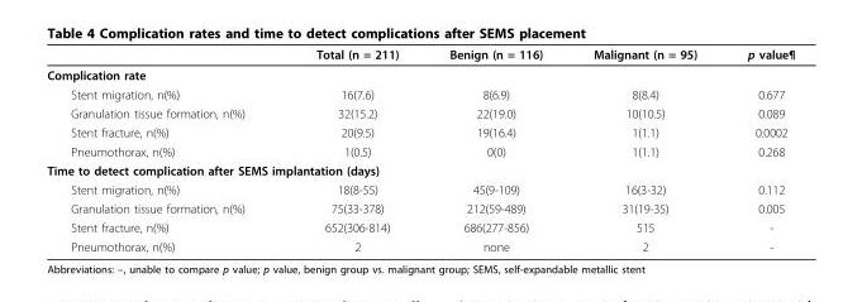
<table><thead><tr><td></td><td>Total (n = 211)</td><td>Benign (n = 116)</td><td>Malignant (n = 95)</td><td>p value¶</td></tr></thead><tbody><tr><td colspan="5">Complication rate</td></tr><tr><td>Stent migration, n(%)</td><td>16(7.6)</td><td>8(6.9)</td><td>8(8.4)</td><td>0.677</td></tr><tr><td>Granulation tissue formation, n(%)</td><td>32(15.2)</td><td>22(19.0)</td><td>10(10.5)</td><td>0.089</td></tr><tr><td>Stent fracture, n(%)</td><td>20(9.5)</td><td>19(16.4)</td><td>1(1.1)</td><td>0.0002</td></tr><tr><td>Pneumothorax, n(%)</td><td>1(0.5)</td><td>0(0)</td><td>1(1.1)</td><td>0.268</td></tr><tr><td colspan="5">Time to detect complication after SEMS implantation (days)</td></tr><tr><td>Stent migration, n(%)</td><td>18(8-55)</td><td>45(9-109)</td><td>16(3-32)</td><td>0.112</td></tr><tr><td>Granulation tissue formation, n(%)</td><td>75(33-378)</td><td>212(59-489)</td><td>31(19-35)</td><td>0.005</td></tr><tr><td>Stent fracture, n(%)</td><td>652(306-814)</td><td>686(277-856)</td><td>515</td><td>-</td></tr><tr><td>Pneumothorax, n(%)</td><td>2</td><td>none</td><td>2</td><td>-</td></tr></tbody></table>